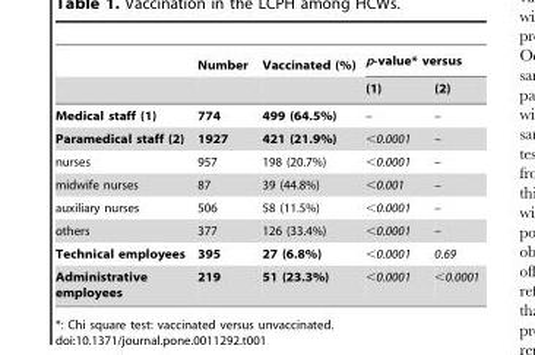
<table><thead><tr><td rowspan="2"></td><td rowspan="2">Number</td><td rowspan="2">Vaccinated (%)</td><td colspan="2">p-value* versus</td></tr><tr><td>(1)</td><td>(2)</td></tr></thead><tbody><tr><td>Medical staff (1)</td><td>774</td><td>499 (64.5%)</td><td>–</td><td>–</td></tr><tr><td>Paramedical staff (2)</td><td>1927</td><td>421 (21.9%)</td><td>&lt;0.0001</td><td>–</td></tr><tr><td>nurses</td><td>957</td><td>198 (20.7%)</td><td>&lt;0.0001</td><td>–</td></tr><tr><td>midwife nurses</td><td>87</td><td>39 (44.8%)</td><td>&lt;0.001</td><td>–</td></tr><tr><td>auxiliary nurses</td><td>506</td><td>58 (11.5%)</td><td>&lt;0.0001</td><td>–</td></tr><tr><td>others</td><td>377</td><td>126 (33.4%)</td><td>&lt;0.0001</td><td>–</td></tr><tr><td>Technical employees</td><td>395</td><td>27 (6.8%)</td><td>&lt;0.0001</td><td>0.69</td></tr><tr><td>Administrative employees</td><td>219</td><td>51 (23.3%)</td><td>&lt;0.0001</td><td>&lt;0.0001</td></tr></tbody></table>